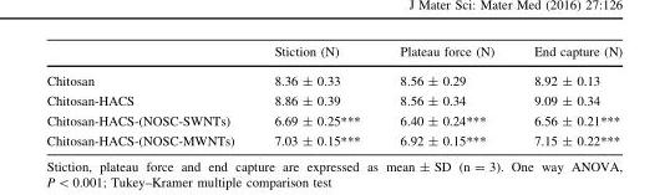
<table><thead><tr><td></td><td>Stiction (N)</td><td>Plateau force (N)</td><td>End capture (N)</td></tr></thead><tbody><tr><td>Chitosan</td><td>8.36 ± 0.33</td><td>8.56 ± 0.29</td><td>8.92 ± 0.13</td></tr><tr><td>Chitosan-HACS</td><td>8.86 ± 0.39</td><td>8.56 ± 0.34</td><td>9.09 ± 0.34</td></tr><tr><td>Chitosan-HACS-(NOSC-SWNTs)</td><td>6.69 ± 0.25***</td><td>6.40 ± 0.24***</td><td>6.56 ± 0.21***</td></tr><tr><td>Chitosan-HACS-(NOSC-MWNTs)</td><td>7.03 ± 0.15***</td><td>6.92 ± 0.15***</td><td>7.15 ± 0.22***</td></tr></tbody></table>